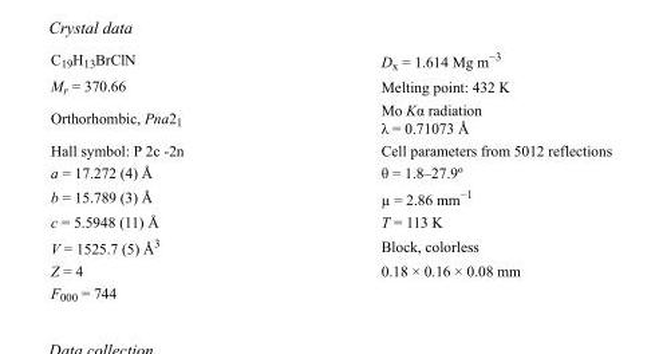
<table><tbody><tr><td>C<sub>19</sub>H<sub>13</sub>BrClN</td><td>D<sub>x</sub> = 1.614 Mg m<sup>−3</sup></td></tr><tr><td>M<sub>r</sub> = 370.66</td><td>Melting point: 432 K</td></tr><tr><td>Orthorhombic, Pna2<sub>1</sub></td><td>Mo Kα radiation λ = 0.71073 Å</td></tr><tr><td>Hall symbol: P 2c -2n</td><td>Cell parameters from 5012 reflections</td></tr><tr><td>a = 17.272 (4) Å</td><td>θ = 1.8–27.9º</td></tr><tr><td>b = 15.789 (3) Å</td><td>µ = 2.86 mm<sup>−1</sup></td></tr><tr><td>c = 5.5948 (11) Å</td><td>T = 113 K</td></tr><tr><td>V = 1525.7 (5) Å<sup>3</sup></td><td>Block, colorless</td></tr><tr><td>Z = 4</td><td>0.18 × 0.16 × 0.08 mm</td></tr><tr><td>F000 = 744</td><td></td></tr></tbody></table>